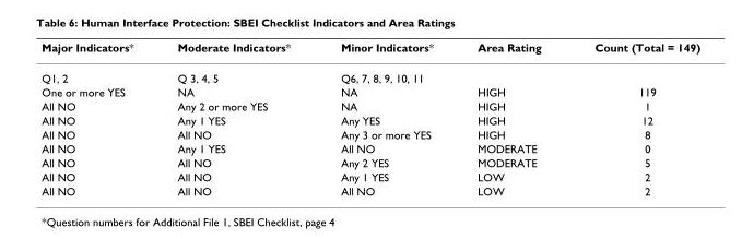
<table><thead><tr><td>Major Indicators*</td><td>Moderate Indicators*</td><td>Minor Indicators*</td><td>Area Rating</td><td>Count (Total = 149)</td></tr></thead><tbody><tr><td>Q1, 2</td><td>Q 3, 4, 5</td><td>Q6, 7, 8, 9, 10, 11</td><td></td><td></td></tr><tr><td>One or more YES</td><td>NA</td><td>NA</td><td>HIGH</td><td>119</td></tr><tr><td>All NO</td><td>Any 2 or more YES</td><td>NA</td><td>HIGH</td><td>1</td></tr><tr><td>All NO</td><td>Any 1 YES</td><td>Any YES</td><td>HIGH</td><td>12</td></tr><tr><td>All NO</td><td>All NO</td><td>Any 3 or more YES</td><td>HIGH</td><td>8</td></tr><tr><td>All NO</td><td>Any 1 YES</td><td>All NO</td><td>MODERATE</td><td>0</td></tr><tr><td>All NO</td><td>All NO</td><td>Any 2 YES</td><td>MODERATE</td><td>5</td></tr><tr><td>All NO</td><td>All NO</td><td>Any 1 YES</td><td>LOW</td><td>2</td></tr><tr><td>All NO</td><td>All NO</td><td>All NO</td><td>LOW</td><td>2</td></tr></tbody></table>